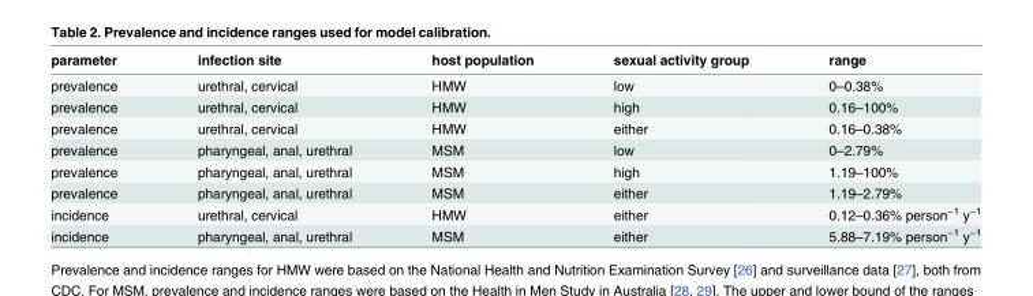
<table><thead><tr><td>parameter</td><td>infection site</td><td>host population</td><td>sexual activity group</td><td>range</td></tr></thead><tbody><tr><td>prevalence</td><td>urethral, cervical</td><td>HMW</td><td>low</td><td>0–0.38%</td></tr><tr><td>prevalence</td><td>urethral, cervical</td><td>HMW</td><td>high</td><td>0.16–100%</td></tr><tr><td>prevalence</td><td>urethral, cervical</td><td>HMW</td><td>either</td><td>0.16–0.38%</td></tr><tr><td>prevalence</td><td>pharyngeal, anal, urethral</td><td>MSM</td><td>low</td><td>0–2.79%</td></tr><tr><td>prevalence</td><td>pharyngeal, anal, urethral</td><td>MSM</td><td>high</td><td>1.19–100%</td></tr><tr><td>prevalence</td><td>pharyngeal, anal, urethral</td><td>MSM</td><td>either</td><td>1.19–2.79%</td></tr><tr><td>incidence</td><td>urethral, cervical</td><td>HMW</td><td>either</td><td>0.12–0.36% person<sup>−1</sup> y<sup>−1</sup></td></tr><tr><td>incidence</td><td>pharyngeal, anal, urethral</td><td>MSM</td><td>either</td><td>5.88–7.19% person<sup>−1</sup> y<sup>−1</sup></td></tr></tbody></table>